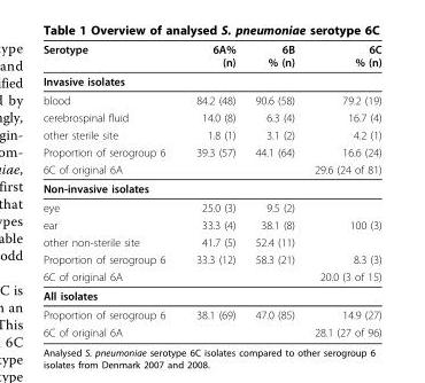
<table><thead><tr><td>Serotype</td><td>6A% (n)</td><td>6B % (n)</td><td>6C % (n)</td></tr></thead><tbody><tr><td colspan="4">Invasive isolates</td></tr><tr><td>blood</td><td>84.2 (48)</td><td>90.6 (58)</td><td>79.2 (19)</td></tr><tr><td>cerebrospinal fluid</td><td>14.0 (8)</td><td>6.3 (4)</td><td>16.7 (4)</td></tr><tr><td>other sterile site</td><td>1.8 (1)</td><td>3.1 (2)</td><td>4.2 (1)</td></tr><tr><td>Proportion of serogroup 6</td><td>39.3 (57)</td><td>44.1 (64)</td><td>16.6 (24)</td></tr><tr><td>6C of original 6A</td><td></td><td></td><td>29.6 (24 of 81)</td></tr><tr><td colspan="4">Non-invasive isolates</td></tr><tr><td>eye</td><td>25.0 (3)</td><td>9.5 (2)</td><td></td></tr><tr><td>ear</td><td>33.3 (4)</td><td>38.1 (8)</td><td>100 (3)</td></tr><tr><td>other non-sterile site</td><td>41.7 (5)</td><td>52.4 (11)</td><td></td></tr><tr><td>Proportion of serogroup 6</td><td>33.3 (12)</td><td>58.3 (21)</td><td>8.3 (3)</td></tr><tr><td>6C of original 6A</td><td></td><td></td><td>20.0 (3 of 15)</td></tr><tr><td colspan="4">All isolates</td></tr><tr><td>Proportion of serogroup 6</td><td>38.1 (69)</td><td>47.0 (85)</td><td>14.9 (27)</td></tr><tr><td>6C of original 6A</td><td></td><td></td><td>28.1 (27 of 96)</td></tr></tbody></table>